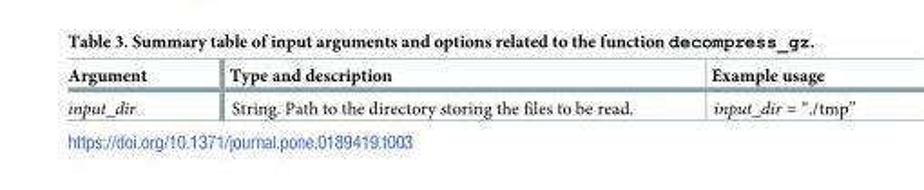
<table><thead><tr><td>Argument</td><td>Type and description</td><td>Example usage</td></tr></thead><tbody><tr><td>input_dir</td><td>String. Path to the directory storing the files to be read.</td><td>input_dir = “./tmp”</td></tr></tbody></table>